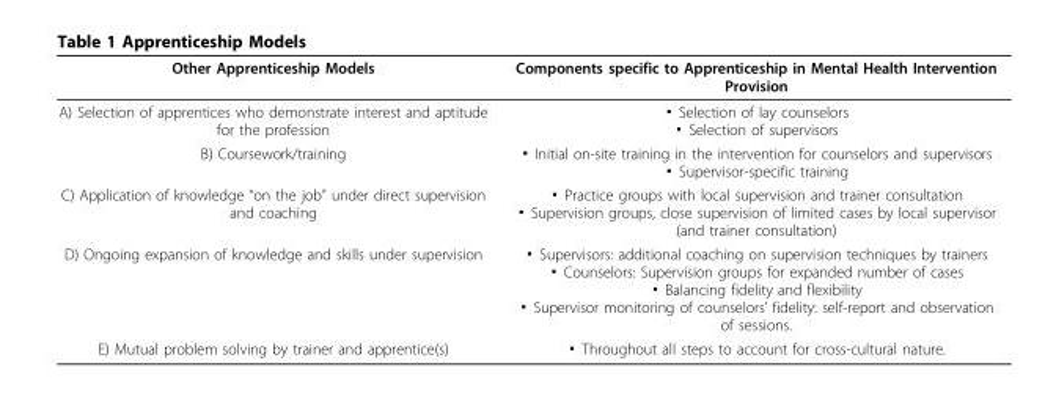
<table><thead><tr><td>Other Apprenticeship Models</td><td>Components specific to Apprenticeship in Mental Health Intervention Provision</td></tr></thead><tbody><tr><td>A) Selection of apprentices who demonstrate interest and aptitude for the profession</td><td>▪ Selection of lay counselors ▪ Selection of supervisors</td></tr><tr><td>B) Coursework/training</td><td>▪ Initial on-site training in the intervention for counselors and supervisors ▪ Supervisor-specific training</td></tr><tr><td>C) Application of knowledge “on the job” under direct supervision and coaching</td><td>▪ Practice groups with local supervision and trainer consultation ▪ Supervision groups, close supervision of limited cases by local supervisor (and trainer consultation)</td></tr><tr><td>D) Ongoing expansion of knowledge and skills under supervision</td><td>▪ Supervisors: additional coaching on supervision techniques by trainers ▪ Counselors: Supervision groups for expanded number of cases ▪ Balancing fidelity and flexibility ▪ Supervisor monitoring of counselors’ fidelity: self-report and observation of sessions.</td></tr><tr><td>E) Mutual problem solving by trainer and apprentice(s)</td><td>▪ Throughout all steps to account for cross-cultural nature.</td></tr></tbody></table>